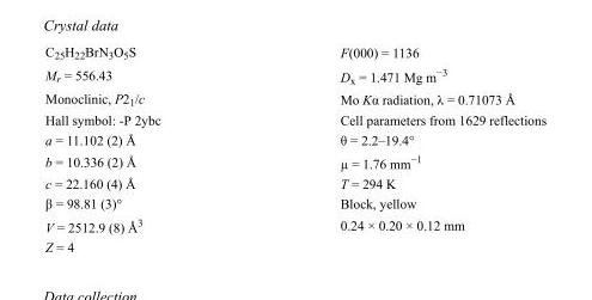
<table><tbody><tr><td>C<sub>25</sub>H<sub>22</sub>BrN<sub>3</sub>O<sub>5</sub>S</td><td>F(000) = 1136</td></tr><tr><td>M<sub>r</sub> = 556.43</td><td>D<sub>x</sub> = 1.471 Mg m<sup>−3</sup></td></tr><tr><td>Monoclinic, P2<sub>1</sub>/c</td><td>Mo Kα radiation, λ = 0.71073 Å</td></tr><tr><td>Hall symbol: -P 2ybc</td><td>Cell parameters from 1629 reflections</td></tr><tr><td>a = 11.102 (2) Å</td><td>θ = 2.2–19.4°</td></tr><tr><td>b = 10.336 (2) Å</td><td>µ = 1.76 mm<sup>−1</sup></td></tr><tr><td>c = 22.160 (4) Å</td><td>T = 294 K</td></tr><tr><td>β = 98.81 (3)°</td><td>Block, yellow</td></tr><tr><td>V = 2512.9 (8) Å<sup>3</sup></td><td>0.24 × 0.20 × 0.12 mm</td></tr><tr><td>Z = 4</td><td></td></tr></tbody></table>